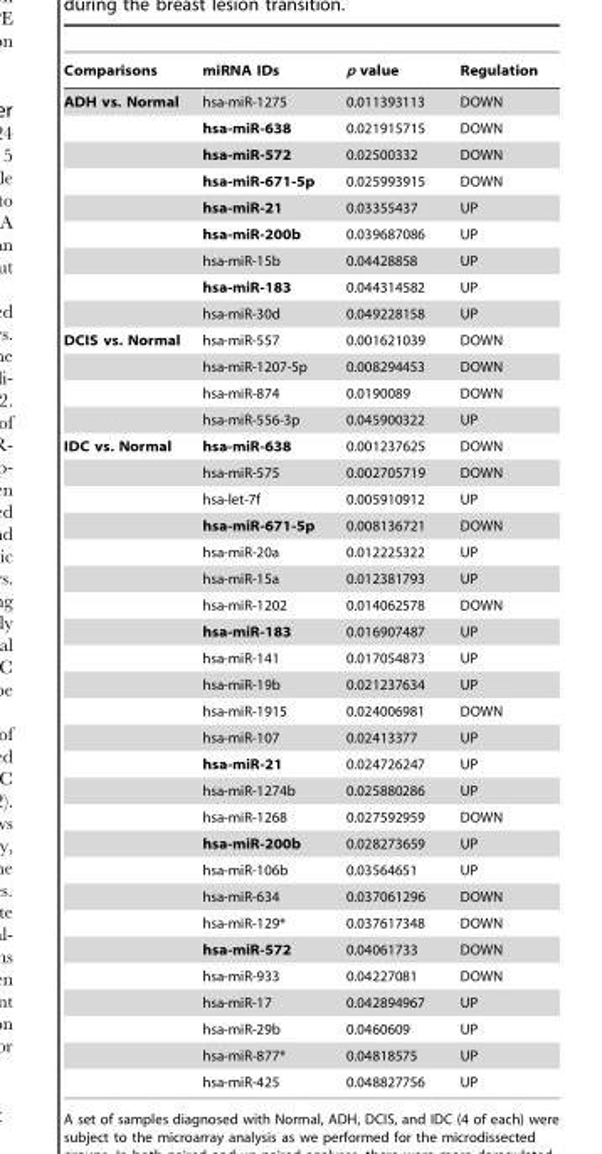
<table><thead><tr><td>Comparisons</td><td>miRNA IDs</td><td>p value</td><td>Regulation</td></tr></thead><tbody><tr><td rowspan="9">ADH vs. Normal</td><td>hsa-miR-1275</td><td>0.011393113</td><td>DOWN</td></tr><tr><td>hsa-miR-638</td><td>0.021915715</td><td>DOWN</td></tr><tr><td>hsa-miR-572</td><td>0.02500332</td><td>DOWN</td></tr><tr><td>hsa-miR-671-5p</td><td>0.025993915</td><td>DOWN</td></tr><tr><td>hsa-miR-21</td><td>0.03355437</td><td>UP</td></tr><tr><td>hsa-miR-200b</td><td>0.039687086</td><td>UP</td></tr><tr><td>hsa-miR-15b</td><td>0.04428858</td><td>UP</td></tr><tr><td>hsa-miR-183</td><td>0.044314582</td><td>UP</td></tr><tr><td>hsa-miR-30d</td><td>0.049228158</td><td>UP</td></tr><tr><td rowspan="4">DCIS vs. Normal</td><td>hsa-miR-557</td><td>0.001621039</td><td>DOWN</td></tr><tr><td>hsa-miR-1207-5p</td><td>0.008294453</td><td>DOWN</td></tr><tr><td>hsa-miR-874</td><td>0.0190089</td><td>DOWN</td></tr><tr><td>hsa-miR-556-3p</td><td>0.045900322</td><td>UP</td></tr><tr><td rowspan="25">IDC vs. Normal</td><td>hsa-miR-638</td><td>0.001237625</td><td>DOWN</td></tr><tr><td>hsa-miR-575</td><td>0.002705719</td><td>DOWN</td></tr><tr><td>hsa-let-7f</td><td>0.005910912</td><td>UP</td></tr><tr><td>hsa-miR-671-5p</td><td>0.008136721</td><td>DOWN</td></tr><tr><td>hsa-miR-20a</td><td>0.012225322</td><td>UP</td></tr><tr><td>hsa-miR-15a</td><td>0.012381793</td><td>UP</td></tr><tr><td>hsa-miR-1202</td><td>0.014062578</td><td>DOWN</td></tr><tr><td>hsa-miR-183</td><td>0.016907487</td><td>UP</td></tr><tr><td>hsa-miR-141</td><td>0.017054873</td><td>UP</td></tr><tr><td>hsa-miR-19b</td><td>0.021237634</td><td>UP</td></tr><tr><td>hsa-miR-1915</td><td>0.024006981</td><td>DOWN</td></tr><tr><td>hsa-miR-107</td><td>0.02413377</td><td>UP</td></tr><tr><td>hsa-miR-21</td><td>0.024726247</td><td>UP</td></tr><tr><td>hsa-miR-1274b</td><td>0.025880286</td><td>UP</td></tr><tr><td>hsa-miR-1268</td><td>0.027592959</td><td>DOWN</td></tr><tr><td>hsa-miR-200b</td><td>0.028273659</td><td>UP</td></tr><tr><td>hsa-miR-106b</td><td>0.03564651</td><td>UP</td></tr><tr><td>hsa-miR-634</td><td>0.037061296</td><td>DOWN</td></tr><tr><td>hsa-miR-129*</td><td>0.037617348</td><td>DOWN</td></tr><tr><td>hsa-miR-572</td><td>0.04061733</td><td>DOWN</td></tr><tr><td>hsa-miR-933</td><td>0.04227081</td><td>DOWN</td></tr><tr><td>hsa-miR-17</td><td>0.042894967</td><td>UP</td></tr><tr><td>hsa-miR-29b</td><td>0.0460609</td><td>UP</td></tr><tr><td>hsa-miR-877*</td><td>0.04818575</td><td>UP</td></tr><tr><td>hsa-miR-425</td><td>0.048827756</td><td>UP</td></tr></tbody></table>